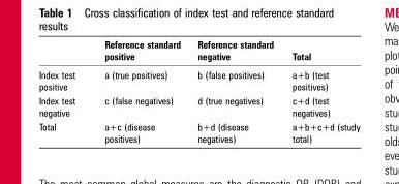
<table><thead><tr><td></td><td>Reference standard positive</td><td>Reference standard negative</td><td>Total</td></tr></thead><tbody><tr><td>Index test positive</td><td>a (true positives)</td><td>b (false positives)</td><td>a+b (test positives)</td></tr><tr><td>Index test negative</td><td>c (false negatives)</td><td>d (true negatives)</td><td>c+d (test negatives)</td></tr><tr><td>Total</td><td>a+c (disease positives)</td><td>b+d (disease negatives)</td><td>a+b+c+d (study total)</td></tr></tbody></table>